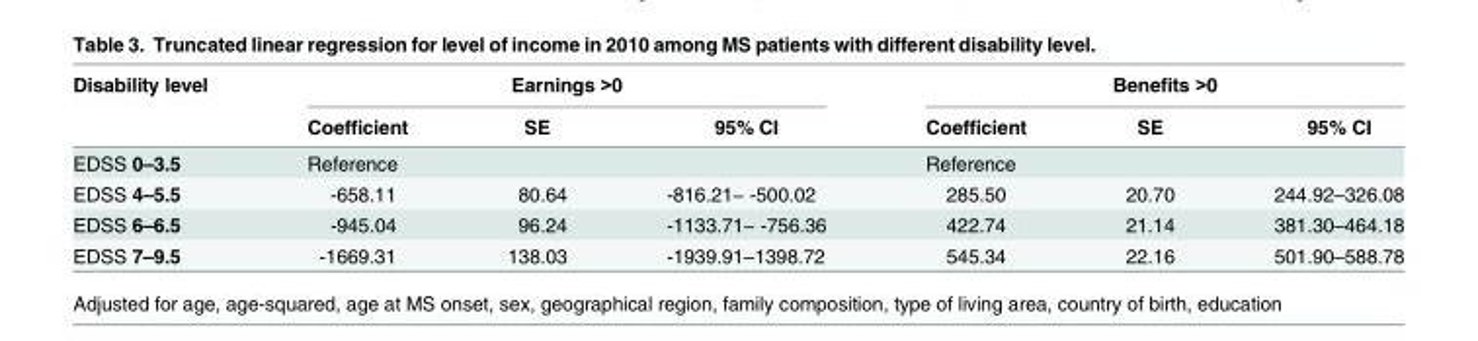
<table><thead><tr><td rowspan="2">Disability level</td><td colspan="3">Earnings &gt;0</td><td colspan="3">Benefits &gt;0</td></tr><tr><td>Coefficient</td><td>SE</td><td>95% CI</td><td>Coefficient</td><td>SE</td><td>95% CI</td></tr></thead><tbody><tr><td>EDSS 0–3.5</td><td colspan="3">Reference</td><td colspan="3">Reference</td></tr><tr><td>EDSS 4–5.5</td><td>-658.11</td><td>80.64</td><td>-816.21− -500.02</td><td>285.50</td><td>20.70</td><td>244.92–326.08</td></tr><tr><td>EDSS 6–6.5</td><td>-945.04</td><td>96.24</td><td>-1133.71− -756.36</td><td>422.74</td><td>21.14</td><td>381.30–464.18</td></tr><tr><td>EDSS 7–9.5</td><td>-1669.31</td><td>138.03</td><td>-1939.91–1398.72</td><td>545.34</td><td>22.16</td><td>501.90–588.78</td></tr></tbody></table>